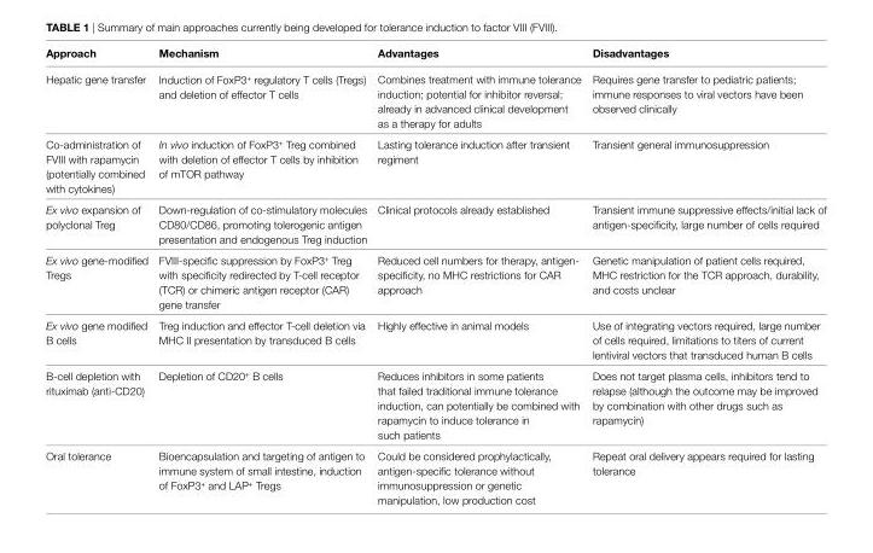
<table><thead><tr><td>Approach</td><td>Mechanism</td><td>Advantages</td><td>Disadvantages</td></tr></thead><tbody><tr><td>Hepatic gene transfer</td><td>Induction of FoxP3<sup>+</sup> regulatory T cells (Tregs) and deletion of effector T cells</td><td>Combines treatment with immune tolerance induction; potential for inhibitor reversal; already in advanced clinical development as a therapy for adults</td><td>Requires gene transfer to pediatric patients; immune responses to viral vectors have been observed clinically</td></tr><tr><td>Co-administration of FVIII with rapamycin (potentially combined with cytokines)</td><td>In vivo induction of FoxP3<sup>+</sup> Treg combined with deletion of effector T cells by inhibition of mTOR pathway</td><td>Lasting tolerance induction after transient regiment</td><td>Transient general immunosuppression</td></tr><tr><td>Ex vivo expansion of polyclonal Treg</td><td>Down-regulation of co-stimulatory molecules CD80/CD86, promoting tolerogenic antigen presentation and endogenous Treg induction</td><td>Clinical protocols already established</td><td>Transient immune suppressive effects/initial lack of antigen-specificity, large number of cells required</td></tr><tr><td>Ex vivo gene-modified Tregs</td><td>FVIII-specific suppression by FoxP3<sup>+</sup> Treg with specificity redirected by T-cell receptor (TCR) or chimeric antigen receptor (CAR) gene transfer</td><td>Reduced cell numbers for therapy, antigen- specificity, no MHC restrictions for CAR approach</td><td>Genetic manipulation of patient cells required, MHC restriction for the TCR approach, durability, and costs unclear</td></tr><tr><td>Ex vivo gene modified B cells</td><td>Treg induction and effector T-cell deletion via MHC II presentation by transduced B cells</td><td>Highly effective in animal models</td><td>Use of integrating vectors required, large number of cells required, limitations to titers of current lentiviral vectors that transduced human B cells</td></tr><tr><td>B-cell depletion with rituximab (anti-CD20)</td><td>Depletion of CD20<sup>+</sup> B cells</td><td>Reduces inhibitors in some patients that failed traditional immune tolerance induction, can potentially be combined with rapamycin to induce tolerance in such patients</td><td>Does not target plasma cells, inhibitors tend to relapse (although the outcome may be improved by combination with other drugs such as rapamycin)</td></tr><tr><td>Oral tolerance</td><td>Bioencapsulation and targeting of antigen to immune system of small intestine, induction of FoxP3<sup>+</sup> and LAP<sup>+</sup> Tregs</td><td>Could be considered prophylactically, antigen-specific tolerance without immunosuppression or genetic manipulation, low production cost</td><td>Repeat oral delivery appears required for lasting tolerance</td></tr></tbody></table>